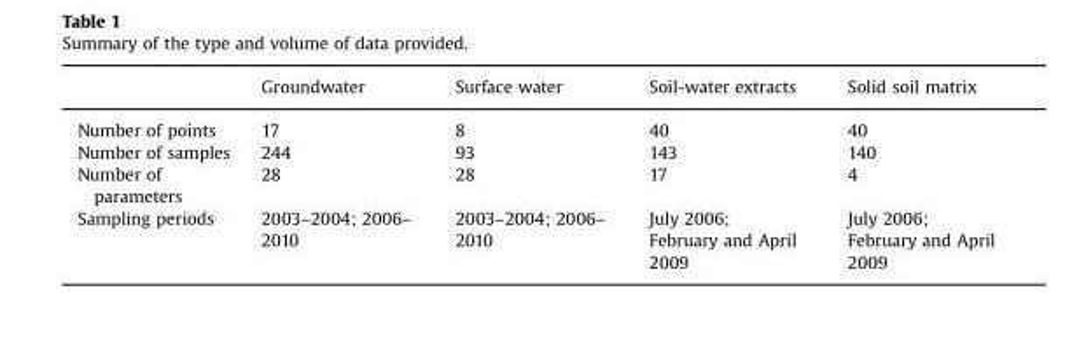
<table><thead><tr><td></td><td>Groundwater</td><td>Surface water</td><td>Soil-water extracts</td><td>Solid soil matrix</td></tr></thead><tbody><tr><td>Number of points</td><td>17</td><td>8</td><td>40</td><td>40</td></tr><tr><td>Number of samples</td><td>244</td><td>93</td><td>143</td><td>140</td></tr><tr><td>Number of parameters</td><td>28</td><td>28</td><td>17</td><td>4</td></tr><tr><td rowspan="2">Sampling periods</td><td rowspan="2">2003–2004; 2006– 2010</td><td rowspan="2">2003–2004; 2006– 2010</td><td>July 2006;</td><td>July 2006;</td></tr><tr><td>February and April 2009</td><td>February and April 2009</td></tr></tbody></table>